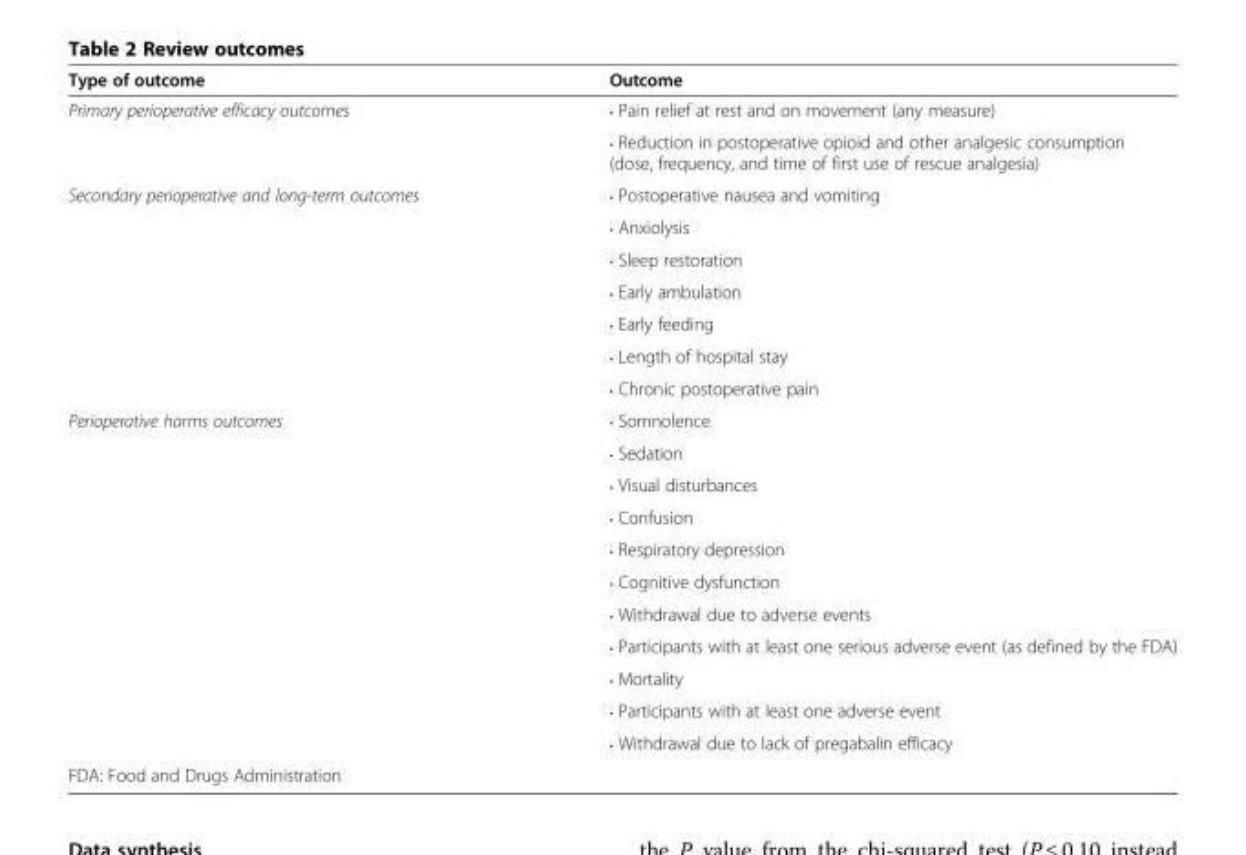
<table><thead><tr><td>Type of outcome</td><td>Outcome</td></tr></thead><tbody><tr><td rowspan="2">Primary perioperative efficacy outcomes</td><td>• Pain relief at rest and on movement (any measure)</td></tr><tr><td>• Reduction in postoperative opioid and other analgesic consumption (dose, frequency, and time of first use of rescue analgesia)</td></tr><tr><td rowspan="7">Secondary perioperative and long-term outcomes</td><td>• Postoperative nausea and vomiting</td></tr><tr><td>• Anxiolysis</td></tr><tr><td>• Sleep restoration</td></tr><tr><td>• Early ambulation</td></tr><tr><td>• Early feeding</td></tr><tr><td>• Length of hospital stay</td></tr><tr><td>• Chronic postoperative pain</td></tr><tr><td rowspan="11">Perioperative harms outcomes</td><td>• Somnolence</td></tr><tr><td>• Sedation</td></tr><tr><td>• Visual disturbances</td></tr><tr><td>• Confusion</td></tr><tr><td>• Respiratory depression</td></tr><tr><td>• Cognitive dysfunction</td></tr><tr><td>• Withdrawal due to adverse events</td></tr><tr><td>• Participants with at least one serious adverse event (as defined by the FDA)</td></tr><tr><td>• Mortality</td></tr><tr><td>• Participants with at least one adverse event</td></tr><tr><td>• Withdrawal due to lack of pregabalin efficacy</td></tr><tr><td colspan="2">FDA: Food and Drugs Administration</td></tr></tbody></table>